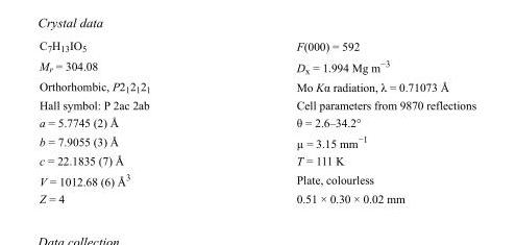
<table><tbody><tr><td>C<sub>7</sub>H<sub>13</sub>IO<sub>5</sub></td><td>F(000) = 592</td></tr><tr><td>M<sub>r</sub> = 304.08</td><td>D<sub>x</sub> = 1.994 Mg m<sup>−3</sup></td></tr><tr><td>Orthorhombic, P2<sub>1</sub>2<sub>1</sub>2<sub>1</sub></td><td>Mo Kα radiation, λ = 0.71073 Å</td></tr><tr><td>Hall symbol: P 2ac 2ab</td><td>Cell parameters from 9870 reflections</td></tr><tr><td>a = 5.7745 (2) Å</td><td>θ = 2.6–34.2°</td></tr><tr><td>b = 7.9055 (3) Å</td><td>µ = 3.15 mm<sup>−1</sup></td></tr><tr><td>c = 22.1835 (7) Å</td><td>T = 111 K</td></tr><tr><td>V = 1012.68 (6) Å<sup>3</sup></td><td>Plate, colourless</td></tr><tr><td>Z = 4</td><td>0.51 × 0.30 × 0.02 mm</td></tr></tbody></table>